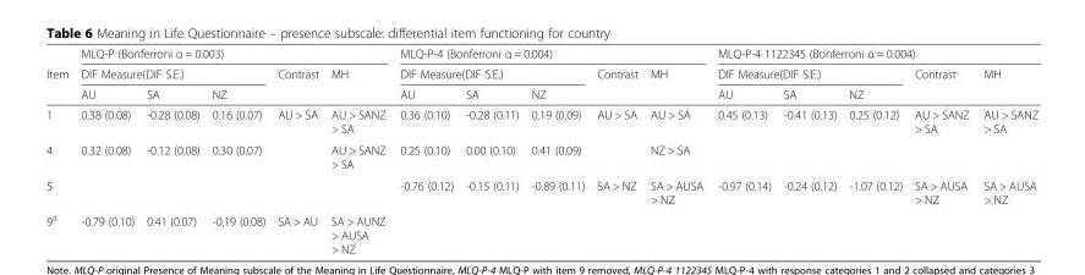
<table><thead><tr><td rowspan="3">Item</td><td colspan="5">MLQ-P (Bonferroni α = 0.003)</td><td colspan="5">MLQ-P-4 (Bonferroni α = 0.004)</td><td colspan="5">MLQ-P-4 1122345 (Bonferroni α = 0.004)</td></tr><tr><td colspan="3">DIF Measure(DIF S.E.)</td><td rowspan="2">Contrast</td><td rowspan="2">MH</td><td colspan="3">DIF Measure(DIF S.E.)</td><td rowspan="2">Contrast</td><td rowspan="2">MH</td><td colspan="3">DIF Measure(DIF S.E.)</td><td rowspan="2">Contrast</td><td rowspan="2">MH</td></tr><tr><td>AU</td><td>SA</td><td>NZ</td><td>AU</td><td>SA</td><td>NZ</td><td>AU</td><td>SA</td><td>NZ</td></tr></thead><tbody><tr><td>1</td><td>0.38 (0.08)</td><td>-0.28 (0.08)</td><td>0.16 (0.07)</td><td>AU &gt; SA</td><td>AU &gt; SANZ &gt; SA</td><td>0.36 (0.10)</td><td>-0.28 (0.11)</td><td>0.19 (0.09)</td><td>AU &gt; SA</td><td>AU &gt; SA</td><td>0.45 (0.13)</td><td>-0.41 (0.13)</td><td>0.25 (0.12)</td><td>AU &gt; SANZ &gt; SA</td><td>AU &gt; SANZ &gt; SA</td></tr><tr><td>4</td><td>0.32 (0.08)</td><td>-0.12 (0.08)</td><td>0.30 (0.07)</td><td></td><td>AU &gt; SANZ &gt; SA</td><td>0.25 (0.10)</td><td>0.00 (0.10)</td><td>0.41 (0.09)</td><td></td><td>NZ &gt; SA</td><td></td><td></td><td></td><td></td><td></td></tr><tr><td>5</td><td></td><td></td><td></td><td></td><td></td><td>-0.76 (0.12)</td><td>-0.15 (0.11)</td><td>-0.89 (0.11)</td><td>SA &gt; NZ</td><td>SA &gt; AUSA &gt; NZ</td><td>-0.97 (0.14)</td><td>-0.24 (0.12)</td><td>-1.07 (0.12)</td><td>SA &gt; AUSA &gt; NZ</td><td>SA &gt; AUSA &gt; NZ</td></tr><tr><td>9<sup>a</sup></td><td>-0.79 (0.10)</td><td>0.41 (0.07)</td><td>-0.19 (0.08)</td><td>SA &gt; AU</td><td>SA &gt; AUNZ</td><td></td><td></td><td></td><td></td><td></td><td></td><td></td><td></td><td></td><td></td></tr></tbody></table>